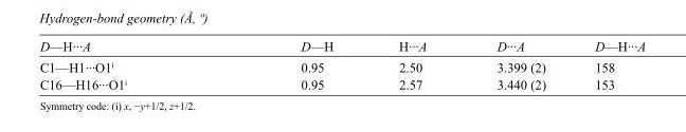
<table><tbody><tr><td>D—H···A</td><td>D—H</td><td>H···A</td><td>D···A</td><td>D—H···A</td></tr><tr><td>C1—H1···O1<sup>i</sup></td><td>0.95</td><td>2.50</td><td>3.399 (2)</td><td>158</td></tr><tr><td>C16—H16···O1<sup>i</sup></td><td>0.95</td><td>2.57</td><td>3.440 (2)</td><td>153</td></tr></tbody></table>